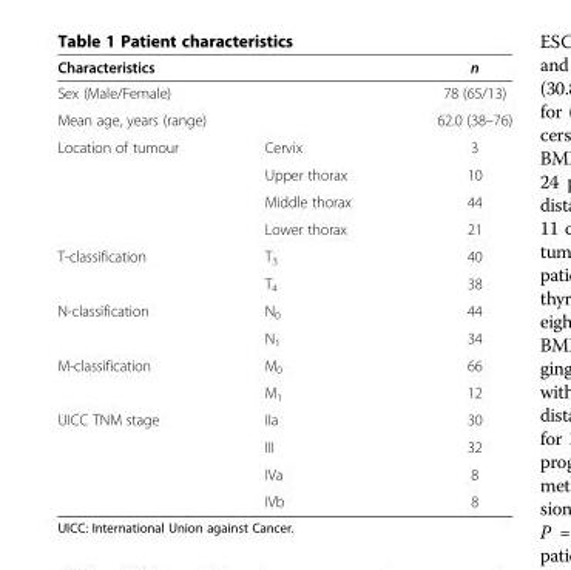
<table><thead><tr><td rowspan="3" colspan="2">Characteristics Sex (Male/Female) Mean age, years (range)</td><td rowspan="4">n 78 (65/13) 62.0 (38–76) 3</td></tr><tr></tr><tr></tr><tr><td>Location of tumour</td><td>Cervix</td></tr></thead><tbody><tr><td></td><td>Upper thorax</td><td>10</td></tr><tr><td></td><td>Middle thorax</td><td>44</td></tr><tr><td></td><td>Lower thorax</td><td>21</td></tr><tr><td rowspan="2">T-classification</td><td>T<sub>3</sub></td><td>40</td></tr><tr><td>T<sub>4</sub></td><td>38</td></tr><tr><td rowspan="2">N-classification</td><td>N<sub>0</sub></td><td>44</td></tr><tr><td>N<sub>1</sub></td><td>34</td></tr><tr><td rowspan="2">M-classification</td><td>M<sub>0</sub></td><td>66</td></tr><tr><td>M<sub>1</sub></td><td>12</td></tr><tr><td rowspan="4">UICC TNM stage</td><td>IIa</td><td>30</td></tr><tr><td>III</td><td>32</td></tr><tr><td>IVa</td><td>8</td></tr><tr><td>IVb</td><td>8</td></tr></tbody></table>